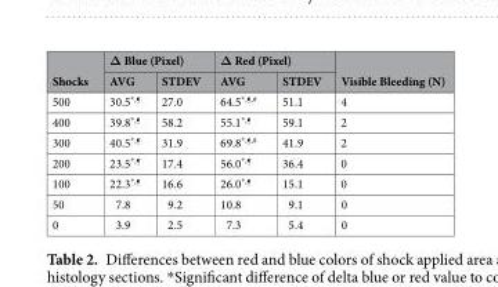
<table><thead><tr><td rowspan="2">Shocks</td><td colspan="2">Δ Blue (Pixel)</td><td colspan="2">Δ Red (Pixel)</td><td rowspan="2">Visible Bleeding (N)</td></tr><tr><td>AVG</td><td>STDEV</td><td>AVG</td><td>STDEV</td></tr></thead><tbody><tr><td>500</td><td>30.5<sup>*,¶</sup></td><td>27.0</td><td>64.5<sup>*,¶,#</sup></td><td>51.1</td><td>4</td></tr><tr><td>400</td><td>39.8<sup>*,¶</sup></td><td>58.2</td><td>55.1<sup>*,¶</sup></td><td>59.1</td><td>2</td></tr><tr><td>300</td><td>40.5<sup>*,¶</sup></td><td>31.9</td><td>69.8<sup>*,¶,#</sup></td><td>41.9</td><td>2</td></tr><tr><td>200</td><td>23.5<sup>*,¶</sup></td><td>17.4</td><td>56.0<sup>*,¶</sup></td><td>36.4</td><td>0</td></tr><tr><td>100</td><td>22.3<sup>*,¶</sup></td><td>16.6</td><td>26.0<sup>*,¶</sup></td><td>15.1</td><td>0</td></tr><tr><td>50</td><td>7.8</td><td>9.2</td><td>10.8</td><td>9.1</td><td>0</td></tr><tr><td>0</td><td>3.9</td><td>2.5</td><td>7.3</td><td>5.4</td><td>0</td></tr></tbody></table>